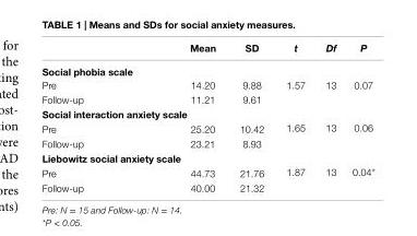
<table><thead><tr><td></td><td>Mean</td><td>sD</td><td>t</td><td>Df</td><td>P</td></tr></thead><tbody><tr><td colspan="6">social phobia scale</td></tr><tr><td>Pre</td><td>14.20</td><td>9.88</td><td rowspan="2">1.57</td><td rowspan="2">13</td><td rowspan="2">0.07</td></tr><tr><td>Follow-up</td><td>11.21</td><td>9.61</td></tr><tr><td colspan="6">social interaction anxiety scale</td></tr><tr><td>Pre</td><td>25.20</td><td>10.42</td><td rowspan="2">1.65</td><td rowspan="2">13</td><td rowspan="2">0.06</td></tr><tr><td>Follow-up</td><td>23.21</td><td>8.93</td></tr><tr><td colspan="6">Liebowitz social anxiety scale</td></tr><tr><td>Pre</td><td>44.73</td><td>21.76</td><td rowspan="2">1.87</td><td rowspan="2">13</td><td rowspan="2">0.04*</td></tr><tr><td>Follow-up</td><td>40.00</td><td>21.32</td></tr></tbody></table>